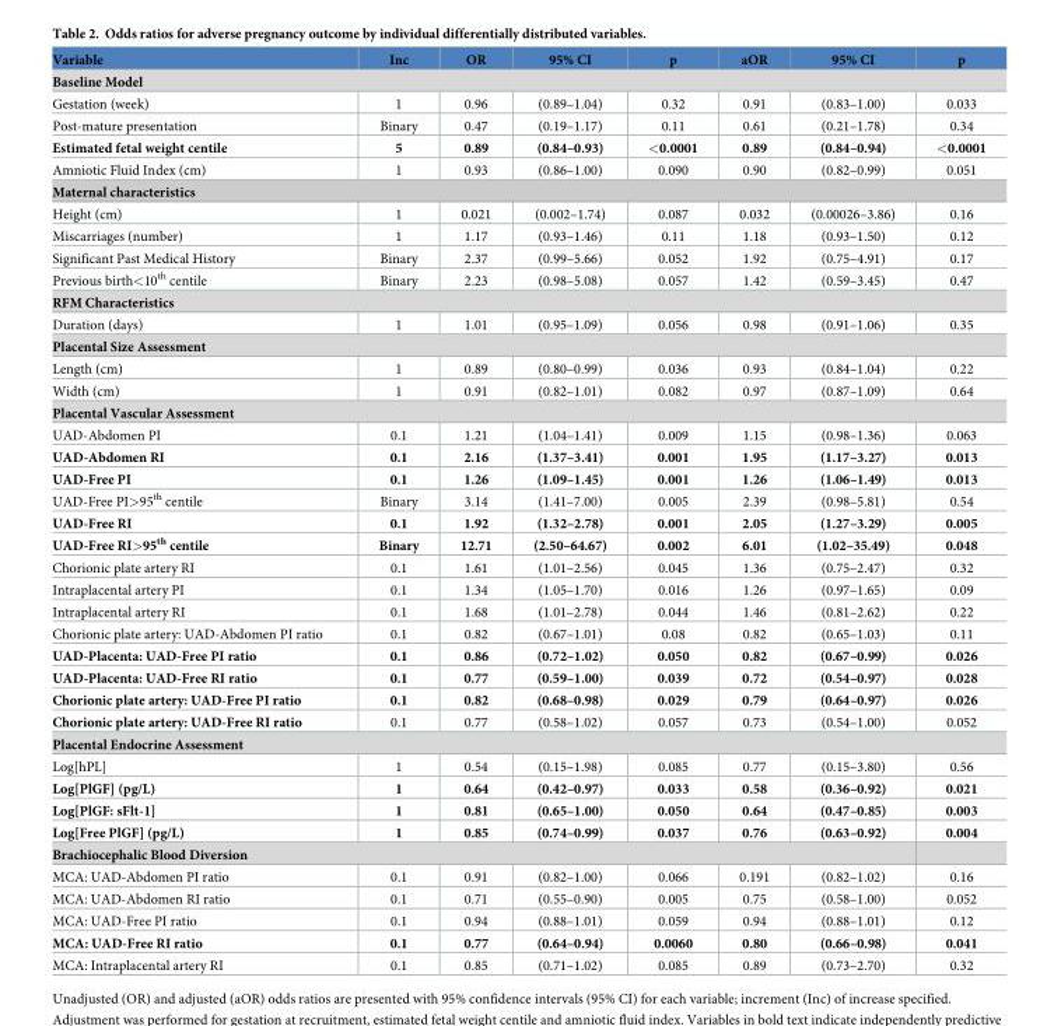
<table><thead><tr><td>Variable</td><td>Inc</td><td>OR</td><td>95% CI</td><td>p</td><td>aOR</td><td>95% CI</td><td>p</td></tr></thead><tbody><tr><td colspan="8">Baseline Model</td></tr><tr><td>Gestation (week)</td><td>1</td><td>0.96</td><td>(0.89–1.04)</td><td>0.32</td><td>0.91</td><td>(0.83–1.00)</td><td>0.033</td></tr><tr><td>Post-mature presentation</td><td>Binary</td><td>0.47</td><td>(0.19–1.17)</td><td>0.11</td><td>0.61</td><td>(0.21–1.78)</td><td>0.34</td></tr><tr><td>Estimated fetal weight centile</td><td>5</td><td>0.89</td><td>(0.84–0.93)</td><td>&lt;0.0001</td><td>0.89</td><td>(0.84–0.94)</td><td>&lt;0.0001</td></tr><tr><td>Amniotic Fluid Index (cm)</td><td>1</td><td>0.93</td><td>(0.86–1.00)</td><td>0.090</td><td>0.90</td><td>(0.82–0.99)</td><td>0.051</td></tr><tr><td colspan="8">Maternal characteristics</td></tr><tr><td>Height (cm)</td><td>1</td><td>0.021</td><td>(0.002–1.74)</td><td>0.087</td><td>0.032</td><td>(0.00026–3.86)</td><td>0.16</td></tr><tr><td>Miscarriages (number)</td><td>1</td><td>1.17</td><td>(0.93–1.46)</td><td>0.11</td><td>1.18</td><td>(0.93–1.50)</td><td>0.12</td></tr><tr><td>Significant Past Medical History</td><td>Binary</td><td>2.37</td><td>(0.99–5.66)</td><td>0.052</td><td>1.92</td><td>(0.75–4.91)</td><td>0.17</td></tr><tr><td>Previous birth&lt;10<sup>th</sup> centile</td><td>Binary</td><td>2.23</td><td>(0.98–5.08)</td><td>0.057</td><td>1.42</td><td>(0.59–3.45)</td><td>0.47</td></tr><tr><td colspan="8">RFM Characteristics</td></tr><tr><td>Duration (days)</td><td>1</td><td>1.01</td><td>(0.95–1.09)</td><td>0.056</td><td>0.98</td><td>(0.91–1.06)</td><td>0.35</td></tr><tr><td colspan="8">Placental Size Assessment</td></tr><tr><td>Length (cm)</td><td>1</td><td>0.89</td><td>(0.80–0.99)</td><td>0.036</td><td>0.93</td><td>(0.84–1.04)</td><td>0.22</td></tr><tr><td>Width (cm)</td><td>1</td><td>0.91</td><td>(0.82–1.01)</td><td>0.082</td><td>0.97</td><td>(0.87–1.09)</td><td>0.64</td></tr><tr><td colspan="8">Placental Vascular Assessment</td></tr><tr><td>UAD-Abdomen PI</td><td>0.1</td><td>1.21</td><td>(1.04–1.41)</td><td>0.009</td><td>1.15</td><td>(0.98–1.36)</td><td>0.063</td></tr><tr><td>UAD-Abdomen RI</td><td>0.1</td><td>2.16</td><td>(1.37–3.41)</td><td>0.001</td><td>1.95</td><td>(1.17–3.27)</td><td>0.013</td></tr><tr><td>UAD-Free PI</td><td>0.1</td><td>1.26</td><td>(1.09–1.45)</td><td>0.001</td><td>1.26</td><td>(1.06–1.49)</td><td>0.013</td></tr><tr><td>UAD-Free PI&gt;95<sup>th</sup> centile</td><td>Binary</td><td>3.14</td><td>(1.41–7.00)</td><td>0.005</td><td>2.39</td><td>(0.98–5.81)</td><td>0.54</td></tr><tr><td>UAD-Free RI</td><td>0.1</td><td>1.92</td><td>(1.32–2.78)</td><td>0.001</td><td>2.05</td><td>(1.27–3.29)</td><td>0.005</td></tr><tr><td>UAD-Free RI&gt;95<sup>th</sup> centile</td><td>Binary</td><td>12.71</td><td>(2.50–64.67)</td><td>0.002</td><td>6.01</td><td>(1.02–35.49)</td><td>0.048</td></tr><tr><td>Chorionic plate artery RI</td><td>0.1</td><td>1.61</td><td>(1.01–2.56)</td><td>0.045</td><td>1.36</td><td>(0.75–2.47)</td><td>0.32</td></tr><tr><td>Intraplacental artery PI</td><td>0.1</td><td>1.34</td><td>(1.05–1.70)</td><td>0.016</td><td>1.26</td><td>(0.97–1.65)</td><td>0.09</td></tr><tr><td>Intraplacental artery RI</td><td>0.1</td><td>1.68</td><td>(1.01–2.78)</td><td>0.044</td><td>1.46</td><td>(0.81–2.62)</td><td>0.22</td></tr><tr><td>Chorionic plate artery: UAD-Abdomen PI ratio</td><td>0.1</td><td>0.82</td><td>(0.67–1.01)</td><td>0.08</td><td>0.82</td><td>(0.65–1.03)</td><td>0.11</td></tr><tr><td>UAD-Placenta: UAD-Free PI ratio</td><td>0.1</td><td>0.86</td><td>(0.72–1.02)</td><td>0.050</td><td>0.82</td><td>(0.67–0.99)</td><td>0.026</td></tr><tr><td>UAD-Placenta: UAD-Free RI ratio</td><td>0.1</td><td>0.77</td><td>(0.59–1.00)</td><td>0.039</td><td>0.72</td><td>(0.54–0.97)</td><td>0.028</td></tr><tr><td>Chorionic plate artery: UAD-Free PI ratio</td><td>0.1</td><td>0.82</td><td>(0.68–0.98)</td><td>0.029</td><td>0.79</td><td>(0.64–0.97)</td><td>0.026</td></tr><tr><td>Chorionic plate artery: UAD-Free RI ratio</td><td>0.1</td><td>0.77</td><td>(0.58–1.02)</td><td>0.057</td><td>0.73</td><td>(0.54–1.00)</td><td>0.052</td></tr><tr><td colspan="8">Placental Endocrine Assessment</td></tr><tr><td>Log[hPL]</td><td>1</td><td>0.54</td><td>(0.15–1.98)</td><td>0.085</td><td>0.77</td><td>(0.15–3.80)</td><td>0.56</td></tr><tr><td>Log[PlGF] (pg/L)</td><td>1</td><td>0.64</td><td>(0.42–0.97)</td><td>0.033</td><td>0.58</td><td>(0.36–0.92)</td><td>0.021</td></tr><tr><td>Log[PlGF: sFlt-1]</td><td>1</td><td>0.81</td><td>(0.65–1.00)</td><td>0.050</td><td>0.64</td><td>(0.47–0.85)</td><td>0.003</td></tr><tr><td>Log[Free PlGF] (pg/L)</td><td>1</td><td>0.85</td><td>(0.74–0.99)</td><td>0.037</td><td>0.76</td><td>(0.63–0.92)</td><td>0.004</td></tr><tr><td colspan="8">Brachiocephalic Blood Diversion</td></tr><tr><td>MCA: UAD-Abdomen PI ratio</td><td>0.1</td><td>0.91</td><td>(0.82–1.00)</td><td>0.066</td><td>0.191</td><td>(0.82–1.02)</td><td>0.16</td></tr><tr><td>MCA: UAD-Abdomen RI ratio</td><td>0.1</td><td>0.71</td><td>(0.55–0.90)</td><td>0.005</td><td>0.75</td><td>(0.58–1.00)</td><td>0.052</td></tr><tr><td>MCA: UAD-Free PI ratio</td><td>0.1</td><td>0.94</td><td>(0.88–1.01)</td><td>0.059</td><td>0.94</td><td>(0.88–1.01)</td><td>0.12</td></tr><tr><td>MCA: UAD-Free RI ratio</td><td>0.1</td><td>0.77</td><td>(0.64–0.94)</td><td>0.0060</td><td>0.80</td><td>(0.66–0.98)</td><td>0.041</td></tr><tr><td>MCA: Intraplacental artery RI</td><td>0.1</td><td>0.85</td><td>(0.71–1.02)</td><td>0.085</td><td>0.89</td><td>(0.73–2.70)</td><td>0.32</td></tr></tbody></table>